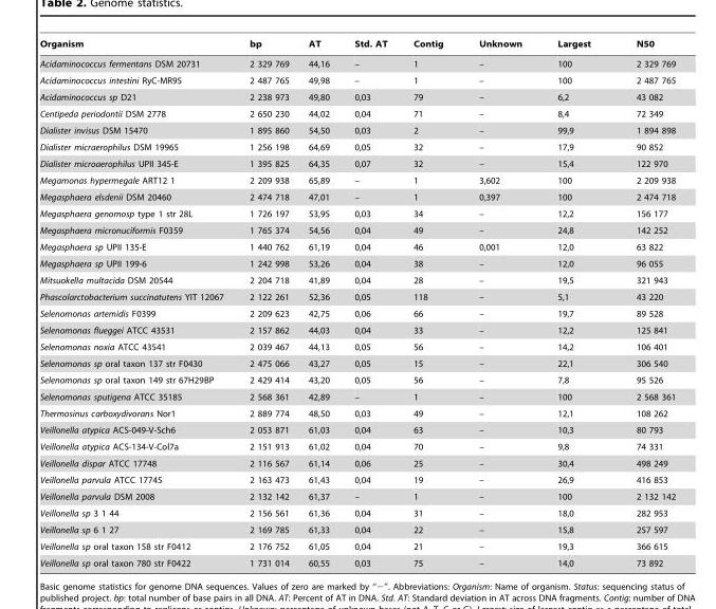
<table><thead><tr><td>Organism</td><td>bp</td><td>AT</td><td>Std. AT</td><td>Contig</td><td>Unknown</td><td>Largest</td><td>N50</td></tr></thead><tbody><tr><td>Acidaminococcus fermentans DSM 20731</td><td>2 329 769</td><td>44,16</td><td>–</td><td>1</td><td>–</td><td>100</td><td>2 329 769</td></tr><tr><td>Acidaminococcus intestini RyC-MR95</td><td>2 487 765</td><td>49,98</td><td>–</td><td>1</td><td>–</td><td>100</td><td>2 487 765</td></tr><tr><td>Acidaminococcus sp D21</td><td>2 238 973</td><td>49,80</td><td>0,03</td><td>79</td><td>–</td><td>6,2</td><td>43 082</td></tr><tr><td>Centipeda periodontii DSM 2778</td><td>2 650 230</td><td>44,02</td><td>0,04</td><td>71</td><td>–</td><td>8,4</td><td>72 349</td></tr><tr><td>Dialister invisus DSM 15470</td><td>1 895 860</td><td>54,50</td><td>0,03</td><td>2</td><td>–</td><td>99,9</td><td>1 894 898</td></tr><tr><td>Dialister micraerophilus DSM 19965</td><td>1 256 198</td><td>64,69</td><td>0,05</td><td>32</td><td>–</td><td>17,9</td><td>90 852</td></tr><tr><td>Dialister microaerophilus UPII 345-E</td><td>1 395 825</td><td>64,35</td><td>0,07</td><td>32</td><td>–</td><td>15,4</td><td>122 970</td></tr><tr><td>Megamonas hypermegale ART12 1</td><td>2 209 938</td><td>65,89</td><td>–</td><td>1</td><td>3,602</td><td>100</td><td>2 209 938</td></tr><tr><td>Megasphaera elsdenii DSM 20460</td><td>2 474 718</td><td>47,01</td><td>–</td><td>1</td><td>0,397</td><td>100</td><td>2 474 718</td></tr><tr><td>Megasphaera genomosp type 1 str 28L</td><td>1 726 197</td><td>53,95</td><td>0,03</td><td>34</td><td>–</td><td>12,2</td><td>156 177</td></tr><tr><td>Megasphaera micronuciformis F0359</td><td>1 765 374</td><td>54,56</td><td>0,04</td><td>49</td><td>–</td><td>24,8</td><td>142 252</td></tr><tr><td>Megasphaera sp UPII 135-E</td><td>1 440 762</td><td>61,19</td><td>0,04</td><td>46</td><td>0,001</td><td>12,0</td><td>63 822</td></tr><tr><td>Megasphaera sp UPII 199-6</td><td>1 242 998</td><td>53,26</td><td>0,04</td><td>38</td><td>–</td><td>12,0</td><td>96 055</td></tr><tr><td>Mitsuokella multacida DSM 20544</td><td>2 204 718</td><td>41,89</td><td>0,04</td><td>28</td><td>–</td><td>19,5</td><td>321 943</td></tr><tr><td>Phascolarctobacterium succinatutens YIT 12067</td><td>2 122 261</td><td>52,36</td><td>0,05</td><td>118</td><td>–</td><td>5,1</td><td>43 220</td></tr><tr><td>Selenomonas artemidis F0399</td><td>2 209 623</td><td>42,75</td><td>0,06</td><td>66</td><td>–</td><td>19,7</td><td>89 528</td></tr><tr><td>Selenomonas flueggei ATCC 43531</td><td>2 157 862</td><td>44,03</td><td>0,04</td><td>33</td><td>–</td><td>12,2</td><td>125 841</td></tr><tr><td>Selenomonas noxia ATCC 43541</td><td>2 039 467</td><td>44,13</td><td>0,05</td><td>56</td><td>–</td><td>14,2</td><td>106 401</td></tr><tr><td>Selenomonas sp oral taxon 137 str F0430</td><td>2 475 066</td><td>43,27</td><td>0,05</td><td>15</td><td>–</td><td>22,1</td><td>306 540</td></tr><tr><td>Selenomonas sp oral taxon 149 str 67H29BP</td><td>2 429 414</td><td>43,20</td><td>0,05</td><td>56</td><td>–</td><td>7,8</td><td>95 526</td></tr><tr><td>Selenomonas sputigena ATCC 35185</td><td>2 568 361</td><td>42,89</td><td>–</td><td>1</td><td>–</td><td>100</td><td>2 568 361</td></tr><tr><td>Thermosinus carboxydivorans Nor1</td><td>2 889 774</td><td>48,50</td><td>0,03</td><td>49</td><td>–</td><td>12,1</td><td>108 262</td></tr><tr><td>Veillonella atypica ACS-049-V-Sch6</td><td>2 053 871</td><td>61,03</td><td>0,04</td><td>63</td><td>–</td><td>10,3</td><td>80 793</td></tr><tr><td>Veillonella atypica ACS-134-V-Col7a</td><td>2 151 913</td><td>61,02</td><td>0,04</td><td>70</td><td>–</td><td>9,8</td><td>74 331</td></tr><tr><td>Veillonella dispar ATCC 17748</td><td>2 116 567</td><td>61,14</td><td>0,06</td><td>25</td><td>–</td><td>30,4</td><td>498 249</td></tr><tr><td>Veillonella parvula ATCC 17745</td><td>2 163 473</td><td>61,43</td><td>0,04</td><td>19</td><td>–</td><td>26,9</td><td>416 853</td></tr><tr><td>Veillonella parvula DSM 2008</td><td>2 132 142</td><td>61,37</td><td>–</td><td>1</td><td>–</td><td>100</td><td>2 132 142</td></tr><tr><td>Veillonella sp 3 1 44</td><td>2 156 561</td><td>61,36</td><td>0,04</td><td>31</td><td>–</td><td>18,0</td><td>282 953</td></tr><tr><td>Veillonella sp 6 1 27</td><td>2 169 785</td><td>61,33</td><td>0,04</td><td>22</td><td>–</td><td>15,8</td><td>257 597</td></tr><tr><td>Veillonella sp oral taxon 158 str F0412</td><td>2 176 752</td><td>61,05</td><td>0,04</td><td>21</td><td>–</td><td>19,3</td><td>366 615</td></tr><tr><td>Veillonella sp oral taxon 780 str F0422</td><td>1 731 014</td><td>60,55</td><td>0,03</td><td>75</td><td>–</td><td>14,0</td><td>73 892</td></tr></tbody></table>